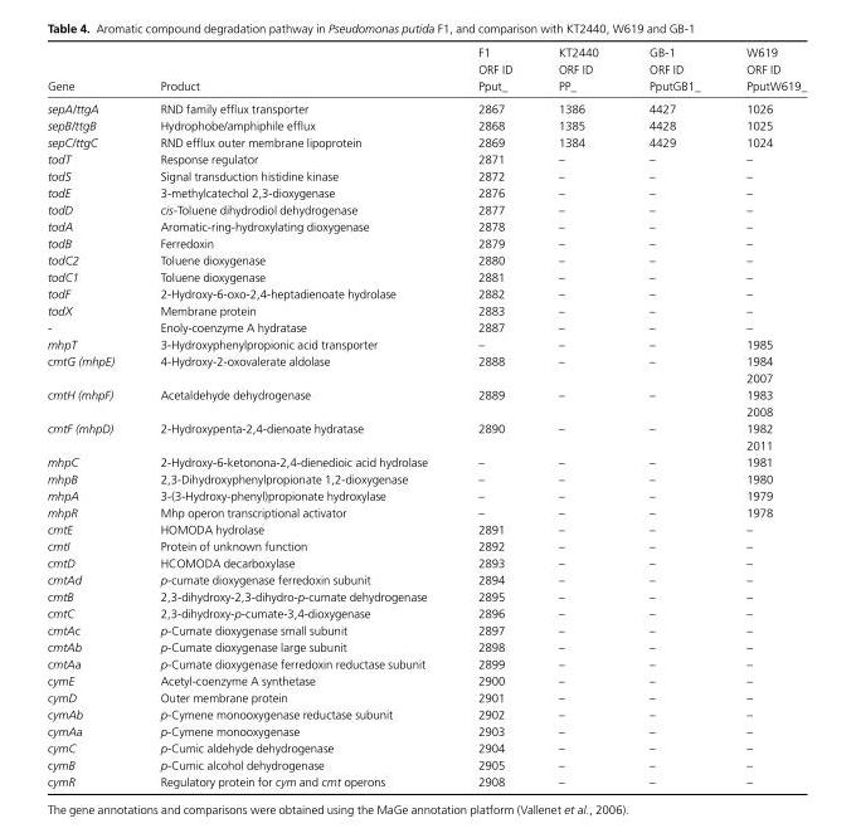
<table><thead><tr><td>Gene</td><td>Product</td><td>F1 ORF ID Pput_</td><td>KT2440 ORF ID PP_</td><td>GB-1 ORF ID PputGB1_</td><td>W619 ORF ID PputW619_</td></tr></thead><tbody><tr><td>sepA/ttgA</td><td>RND family efflux transporter</td><td>2867</td><td>1386</td><td>4427</td><td>1026</td></tr><tr><td>sepB/ttgB</td><td>Hydrophobe/amphiphile efflux</td><td>2868</td><td>1385</td><td>4428</td><td>1025</td></tr><tr><td>sepC/ttgC</td><td>RND efflux outer membrane lipoprotein</td><td>2869</td><td>1384</td><td>4429</td><td>1024</td></tr><tr><td>todT</td><td>Response regulator</td><td>2871</td><td>–</td><td>–</td><td>–</td></tr><tr><td>todS</td><td>Signal transduction histidine kinase</td><td>2872</td><td>–</td><td>–</td><td>–</td></tr><tr><td>todE</td><td>3-methylcatechol 2,3-dioxygenase</td><td>2876</td><td>–</td><td>–</td><td>–</td></tr><tr><td>todD</td><td>cis-Toluene dihydrodiol dehydrogenase</td><td>2877</td><td>–</td><td>–</td><td>–</td></tr><tr><td>todA</td><td>Aromatic-ring-hydroxylating dioxygenase</td><td>2878</td><td>–</td><td>–</td><td>–</td></tr><tr><td>todB</td><td>Ferredoxin</td><td>2879</td><td>–</td><td>–</td><td>–</td></tr><tr><td>todC2</td><td>Toluene dioxygenase</td><td>2880</td><td>–</td><td>–</td><td>–</td></tr><tr><td>todC1</td><td>Toluene dioxygenase</td><td>2881</td><td>–</td><td>–</td><td>–</td></tr><tr><td>todF</td><td>2-Hydroxy-6-oxo-2,4-heptadienoate hydrolase</td><td>2882</td><td>–</td><td>–</td><td>–</td></tr><tr><td>todX</td><td>Membrane protein</td><td>2883</td><td>–</td><td>–</td><td>–</td></tr><tr><td>-</td><td>Enoly-coenzyme A hydratase</td><td>2887</td><td>–</td><td>–</td><td>–</td></tr><tr><td>mhpT</td><td>3-Hydroxyphenylpropionic acid transporter</td><td>–</td><td>–</td><td>–</td><td>1985</td></tr><tr><td>cmtG (mhpE)</td><td>4-Hydroxy-2-oxovalerate aldolase</td><td>2888</td><td>–</td><td>–</td><td>1984 2007</td></tr><tr><td>cmtH (mhpF)</td><td>Acetaldehyde dehydrogenase</td><td>2889</td><td>–</td><td>–</td><td>1983 2008</td></tr><tr><td>cmtF (mhpD)</td><td>2-Hydroxypenta-2,4-dienoate hydratase</td><td>2890</td><td>–</td><td>–</td><td>1982 2011</td></tr><tr><td>mhpC</td><td>2-Hydroxy-6-ketonona-2,4-dienedioic acid hydrolase</td><td>–</td><td>–</td><td>–</td><td>1981</td></tr><tr><td>mhpB</td><td>2,3-Dihydroxyphenylpropionate 1,2-dioxygenase</td><td>–</td><td>–</td><td>–</td><td>1980</td></tr><tr><td>mhpA</td><td>3-(3-Hydroxy-phenyl)propionate hydroxylase</td><td>–</td><td>–</td><td>–</td><td>1979</td></tr><tr><td>mhpR</td><td>Mhp operon transcriptional activator</td><td>–</td><td>–</td><td>–</td><td>1978</td></tr><tr><td>cmtE</td><td>HOMODA hydrolase</td><td>2891</td><td>–</td><td>–</td><td>–</td></tr><tr><td>cmtI</td><td>Protein of unknown function</td><td>2892</td><td>–</td><td>–</td><td>–</td></tr><tr><td>cmtD</td><td>HCOMODA decarboxylase</td><td>2893</td><td>–</td><td>–</td><td>–</td></tr><tr><td>cmtAd</td><td>p-cumate dioxygenase ferredoxin subunit</td><td>2894</td><td>–</td><td>–</td><td>–</td></tr><tr><td>cmtB</td><td>2,3-dihydroxy-2,3-dihydro-p-cumate dehydrogenase</td><td>2895</td><td>–</td><td>–</td><td>–</td></tr><tr><td>cmtC</td><td>2,3-dihydroxy-p-cumate-3,4-dioxygenase</td><td>2896</td><td>–</td><td>–</td><td>–</td></tr><tr><td>cmtAc</td><td>p-Cumate dioxygenase small subunit</td><td>2897</td><td>–</td><td>–</td><td>–</td></tr><tr><td>cmtAb</td><td>p-Cumate dioxygenase large subunit</td><td>2898</td><td>–</td><td>–</td><td>–</td></tr><tr><td>cmtAa</td><td>p-Cumate dioxygenase ferredoxin reductase subunit</td><td>2899</td><td>–</td><td>–</td><td>–</td></tr><tr><td>cymE</td><td>Acetyl-coenzyme A synthetase</td><td>2900</td><td>–</td><td>–</td><td>–</td></tr><tr><td>cymD</td><td>Outer membrane protein</td><td>2901</td><td>–</td><td>–</td><td>–</td></tr><tr><td>cymAb</td><td>p-Cymene monooxygenase reductase subunit</td><td>2902</td><td>–</td><td>–</td><td>–</td></tr><tr><td>cymAa</td><td>p-Cymene monooxygenase</td><td>2903</td><td>–</td><td>–</td><td>–</td></tr><tr><td>cymC</td><td>p-Cumic aldehyde dehydrogenase</td><td>2904</td><td>–</td><td>–</td><td>–</td></tr><tr><td>cymB</td><td>p-Cumic alcohol dehydrogenase</td><td>2905</td><td>–</td><td>–</td><td>–</td></tr><tr><td>cymR</td><td>Regulatory protein for cym and cmt operons</td><td>2908</td><td>–</td><td>–</td><td>–</td></tr></tbody></table>